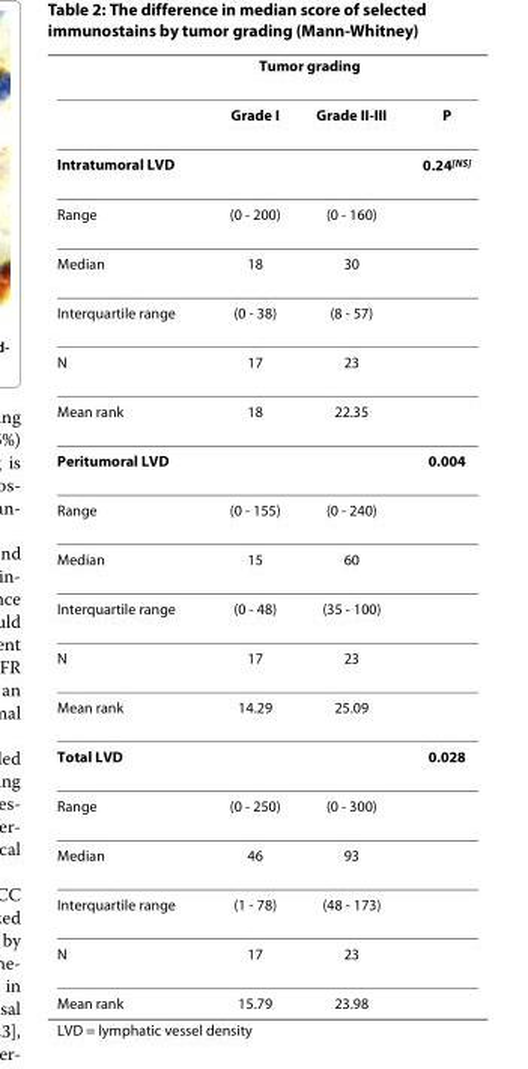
<table><thead><tr><td rowspan="2"></td><td colspan="2">Tumor grading</td><td rowspan="2">P</td></tr><tr><td>Grade I</td><td>Grade II-III</td></tr></thead><tbody><tr><td colspan="3">Intratumoral LVD</td><td>0.24<sup>[NS]</sup></td></tr><tr><td>Range</td><td>(0 - 200)</td><td>(0 - 160)</td><td></td></tr><tr><td>Median</td><td>18</td><td>30</td><td></td></tr><tr><td>Interquartile range</td><td>(0 - 38)</td><td>(8 - 57)</td><td></td></tr><tr><td>N</td><td>17</td><td>23</td><td></td></tr><tr><td>Mean rank</td><td>18</td><td>22.35</td><td></td></tr><tr><td colspan="3">Peritumoral LVD</td><td>0.004</td></tr><tr><td>Range</td><td>(0 - 155)</td><td>(0 - 240)</td><td></td></tr><tr><td>Median</td><td>15</td><td>60</td><td></td></tr><tr><td>Interquartile range</td><td>(0 - 48)</td><td>(35 - 100)</td><td></td></tr><tr><td>N</td><td>17</td><td>23</td><td></td></tr><tr><td>Mean rank</td><td>14.29</td><td>25.09</td><td></td></tr><tr><td colspan="3">Total LVD</td><td>0.028</td></tr><tr><td>Range</td><td>(0 - 250)</td><td>(0 - 300)</td><td></td></tr><tr><td>Median</td><td>46</td><td>93</td><td></td></tr><tr><td>Interquartile range</td><td>(1 - 78)</td><td>(48 - 173)</td><td></td></tr><tr><td>N</td><td>17</td><td>23</td><td></td></tr><tr><td>Mean rank</td><td>15.79</td><td>23.98</td><td></td></tr></tbody></table>